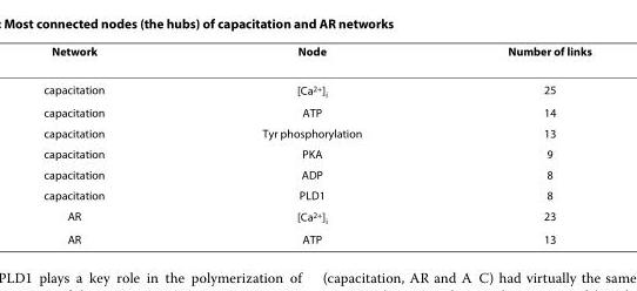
<table><thead><tr><td>Network</td><td>Node</td><td>Number of links</td></tr></thead><tbody><tr><td>capacitation</td><td>[Ca<sup>2+</sup>]<sub>i</sub></td><td>25</td></tr><tr><td>capacitation</td><td>ATP</td><td>14</td></tr><tr><td>capacitation</td><td>Tyr phosphorylation</td><td>13</td></tr><tr><td>capacitation</td><td>PKA</td><td>9</td></tr><tr><td>capacitation</td><td>ADP</td><td>8</td></tr><tr><td>capacitation</td><td>PLD1</td><td>8</td></tr><tr><td>AR</td><td>[Ca<sup>2+</sup>]<sub>i</sub></td><td>23</td></tr><tr><td>AR</td><td>ATP</td><td>13</td></tr></tbody></table>